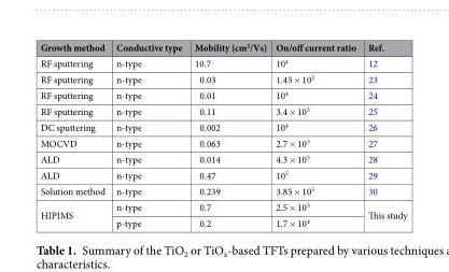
<table><thead><tr><td>Growth method</td><td>Conductive type</td><td>Mobility (cm<sup>2</sup>/Vs)</td><td>On/off current ratio</td><td>Ref.</td></tr></thead><tbody><tr><td>RF sputtering</td><td>n-type</td><td>10.7</td><td>10<sup>4</sup></td><td>12</td></tr><tr><td>RF sputtering</td><td>n-type</td><td>0.03</td><td>1.45 × 10<sup>2</sup></td><td>23</td></tr><tr><td>RF sputtering</td><td>n-type</td><td>0.01</td><td>10<sup>4</sup></td><td>24</td></tr><tr><td>RF sputtering</td><td>n-type</td><td>0.11</td><td>3.4 × 10<sup>5</sup></td><td>25</td></tr><tr><td>DC sputtering</td><td>n-type</td><td>0.002</td><td>10<sup>4</sup></td><td>26</td></tr><tr><td>MOCVD</td><td>n-type</td><td>0.063</td><td>2.7 × 10<sup>5</sup></td><td>27</td></tr><tr><td>ALD</td><td>n-type</td><td>0.014</td><td>4.3 × 10<sup>5</sup></td><td>28</td></tr><tr><td>ALD</td><td>n-type</td><td>0.47</td><td>10<sup>5</sup></td><td>29</td></tr><tr><td>Solution method</td><td>n-type</td><td>0.239</td><td>3.85 × 10<sup>5</sup></td><td>30</td></tr><tr><td rowspan="2">HIPIMS</td><td>n-type</td><td>0.7</td><td>2.5 × 10<sup>5</sup></td><td rowspan="2">This study</td></tr><tr><td>p-type</td><td>0.2</td><td>1.7 × 10<sup>4</sup></td></tr></tbody></table>